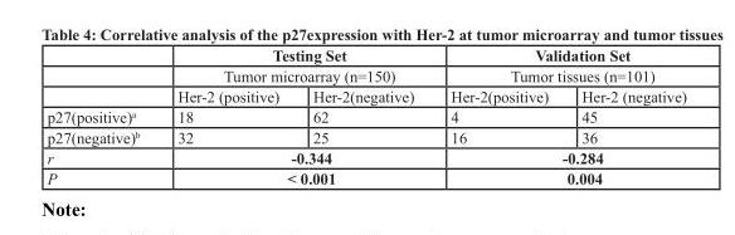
<table><thead><tr><td rowspan="3"></td><td rowspan="2" colspan="2">Testing Set Tumor microarray (n=150)</td><td rowspan="2" colspan="2">Validation Set Tumor tissues (n=101)</td></tr><tr></tr><tr><td>Her-2 (positive)</td><td>Her-2(negative)</td><td>Her-2(positive)</td><td>Her-2 (negative)</td></tr></thead><tbody><tr><td>p27(positive)<sup>a</sup></td><td>18</td><td>62</td><td>4</td><td>45</td></tr><tr><td>p27(negative)<sup>b</sup></td><td>32</td><td>25</td><td>16</td><td>36</td></tr><tr><td>r</td><td colspan="2">-0.344</td><td colspan="2">-0.284</td></tr><tr><td>P</td><td colspan="2">&lt; 0.001</td><td colspan="2">0.004</td></tr></tbody></table>